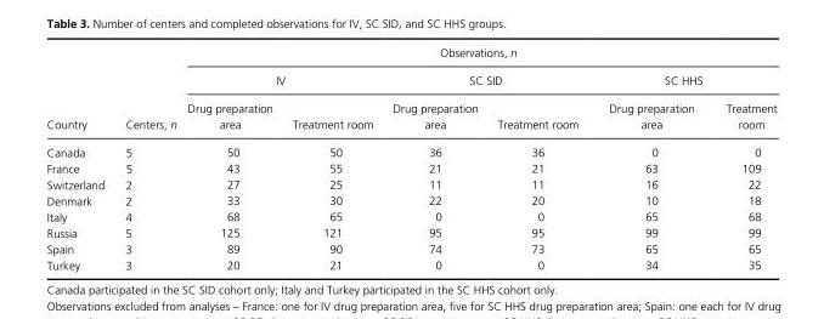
<table><thead><tr><td rowspan="3">Country</td><td rowspan="3">Centers, n</td><td colspan="6">Observations, n</td></tr><tr><td colspan="2">IV</td><td colspan="2">SC SID</td><td colspan="2">SC HHS</td></tr><tr><td>Drug preparation area</td><td>Treatment room</td><td>Drug preparation area</td><td>Treatment room</td><td>Drug preparation area</td><td>Treatment room</td></tr></thead><tbody><tr><td>Canada</td><td>5</td><td>50</td><td>50</td><td>36</td><td>36</td><td>0</td><td>0</td></tr><tr><td>France</td><td>5</td><td>43</td><td>55</td><td>21</td><td>21</td><td>63</td><td>109</td></tr><tr><td>Switzerland</td><td>2</td><td>27</td><td>25</td><td>11</td><td>11</td><td>16</td><td>22</td></tr><tr><td>Denmark</td><td>2</td><td>33</td><td>30</td><td>22</td><td>20</td><td>10</td><td>18</td></tr><tr><td>Italy</td><td>4</td><td>68</td><td>65</td><td>0</td><td>0</td><td>65</td><td>68</td></tr><tr><td>Russia</td><td>5</td><td>125</td><td>121</td><td>95</td><td>95</td><td>99</td><td>99</td></tr><tr><td>Spain</td><td>3</td><td>89</td><td>90</td><td>74</td><td>73</td><td>65</td><td>65</td></tr><tr><td>Turkey</td><td>3</td><td>20</td><td>21</td><td>0</td><td>0</td><td>34</td><td>35</td></tr></tbody></table>